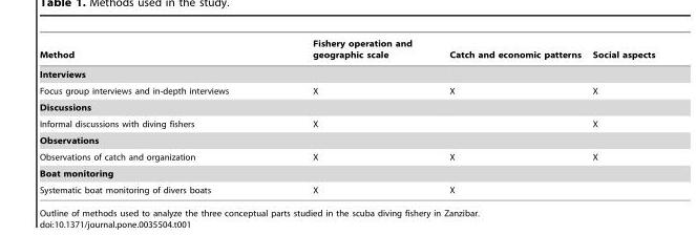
<table><thead><tr><td>Method</td><td>Fishery operation and geographic scale</td><td>Catch and economic patterns</td><td>Social aspects</td></tr></thead><tbody><tr><td colspan="4">Interviews</td></tr><tr><td>Focus group interviews and in-depth interviews</td><td>X</td><td>X</td><td>X</td></tr><tr><td colspan="4">Discussions</td></tr><tr><td>Informal discussions with diving fishers</td><td>X</td><td></td><td>X</td></tr><tr><td colspan="4">Observations</td></tr><tr><td>Observations of catch and organization</td><td>X</td><td>X</td><td>X</td></tr><tr><td colspan="4">Boat monitoring</td></tr><tr><td>Systematic boat monitoring of divers boats</td><td>X</td><td>X</td><td></td></tr></tbody></table>